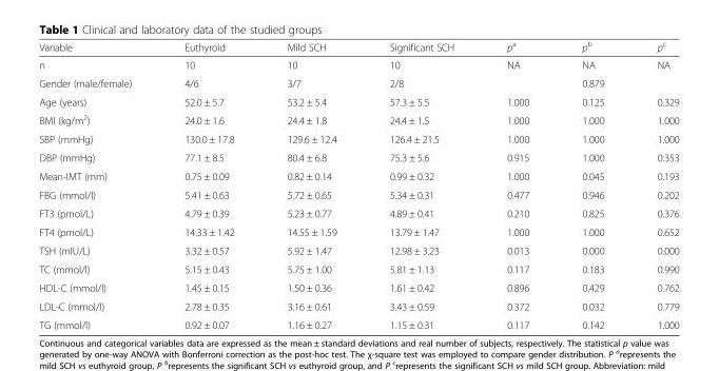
<table><thead><tr><td>Variable</td><td>Euthyroid</td><td>Mild SCH</td><td>Significant SCH</td><td>p<sup>a</sup></td><td>p<sup>b</sup></td><td>p<sup>c</sup></td></tr></thead><tbody><tr><td>n</td><td>10</td><td>10</td><td>10</td><td>NA</td><td>NA</td><td>NA</td></tr><tr><td>Gender (male/female)</td><td>4/6</td><td>3/7</td><td>2/8</td><td></td><td>0.879</td><td></td></tr><tr><td>Age (years)</td><td>52.0 ± 5.7</td><td>53.2 ± 5.4</td><td>57.3 ± 5.5</td><td>1.000</td><td>0.125</td><td>0.329</td></tr><tr><td>BMI (kg/m<sup>2</sup>)</td><td>24.0 ± 1.6</td><td>24.4 ± 1.8</td><td>24.4 ± 1.5</td><td>1.000</td><td>1.000</td><td>1.000</td></tr><tr><td>SBP (mmHg)</td><td>130.0 ± 17.8</td><td>129.6 ± 12.4</td><td>126.4 ± 21.5</td><td>1.000</td><td>1.000</td><td>1.000</td></tr><tr><td>DBP (mmHg)</td><td>77.1 ± 8.5</td><td>80.4 ± 6.8</td><td>75.3 ± 5.6</td><td>0.915</td><td>1.000</td><td>0.353</td></tr><tr><td>Mean-IMT (mm)</td><td>0.75 ± 0.09</td><td>0.82 ± 0.14</td><td>0.99 ± 0.32</td><td>1.000</td><td>0.045</td><td>0.193</td></tr><tr><td>FBG (mmol/l)</td><td>5.41 ± 0.63</td><td>5.72 ± 0.65</td><td>5.34 ± 0.31</td><td>0.477</td><td>0.946</td><td>0.202</td></tr><tr><td>FT3 (pmol/L)</td><td>4.79 ± 0.39</td><td>5.23 ± 0.77</td><td>4.89 ± 0.41</td><td>0.210</td><td>0.825</td><td>0.376</td></tr><tr><td>FT4 (pmol/L)</td><td>14.33 ± 1.42</td><td>14.55 ± 1.59</td><td>13.79 ± 1.47</td><td>1.000</td><td>1.000</td><td>0.652</td></tr><tr><td>TSH (mIU/L)</td><td>3.32 ± 0.57</td><td>5.92 ± 1.47</td><td>12.98 ± 3.23</td><td>0.013</td><td>0.000</td><td>0.000</td></tr><tr><td>TC (mmol/l)</td><td>5.15 ± 0.43</td><td>5.75 ± 1.00</td><td>5.81 ± 1.13</td><td>0.117</td><td>0.183</td><td>0.990</td></tr><tr><td>HDL-C (mmol/l)</td><td>1.45 ± 0.15</td><td>1.50 ± 0.36</td><td>1.61 ± 0.42</td><td>0.896</td><td>0.429</td><td>0.762</td></tr><tr><td>LDL-C (mmol/l)</td><td>2.78 ± 0.35</td><td>3.16 ± 0.61</td><td>3.43 ± 0.59</td><td>0.372</td><td>0.032</td><td>0.779</td></tr><tr><td>TG (mmol/l)</td><td>0.92 ± 0.07</td><td>1.16 ± 0.27</td><td>1.15 ± 0.31</td><td>0.117</td><td>0.142</td><td>1.000</td></tr></tbody></table>